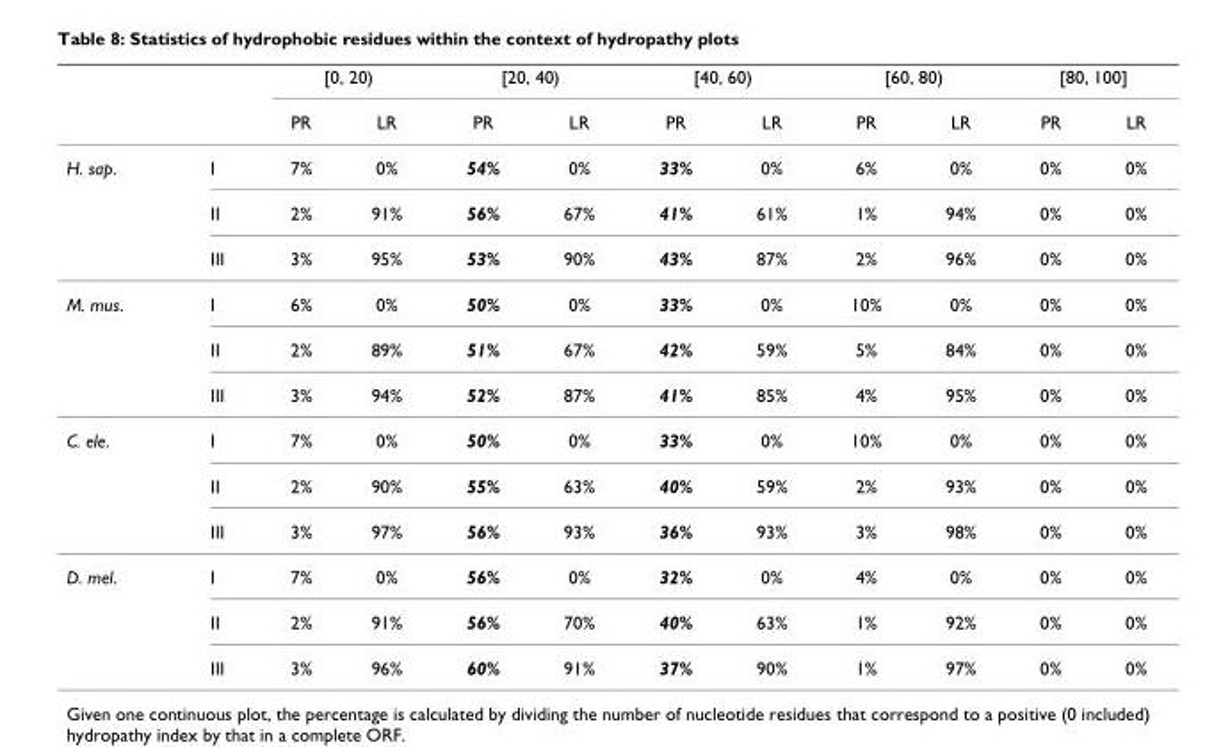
<table><thead><tr><td rowspan="2"></td><td rowspan="2"></td><td colspan="2">[0, 20)</td><td colspan="2">[20, 40)</td><td colspan="2">[40, 60)</td><td colspan="2">[60, 80)</td><td colspan="2">[80, 100]</td></tr><tr><td>PR</td><td>LR</td><td>PR</td><td>LR</td><td>PR</td><td>LR</td><td>PR</td><td>LR</td><td>PR</td><td>LR</td></tr></thead><tbody><tr><td rowspan="3">H. sap.</td><td>I</td><td>7%</td><td>0%</td><td>54%</td><td>0%</td><td>33%</td><td>0%</td><td>6%</td><td>0%</td><td>0%</td><td>0%</td></tr><tr><td>II</td><td>2%</td><td>91%</td><td>56%</td><td>67%</td><td>41%</td><td>61%</td><td>1%</td><td>94%</td><td>0%</td><td>0%</td></tr><tr><td>III</td><td>3%</td><td>95%</td><td>53%</td><td>90%</td><td>43%</td><td>87%</td><td>2%</td><td>96%</td><td>0%</td><td>0%</td></tr><tr><td rowspan="3">M. mus.</td><td>I</td><td>6%</td><td>0%</td><td>50%</td><td>0%</td><td>33%</td><td>0%</td><td>10%</td><td>0%</td><td>0%</td><td>0%</td></tr><tr><td>II</td><td>2%</td><td>89%</td><td>51%</td><td>67%</td><td>42%</td><td>59%</td><td>5%</td><td>84%</td><td>0%</td><td>0%</td></tr><tr><td>III</td><td>3%</td><td>94%</td><td>52%</td><td>87%</td><td>41%</td><td>85%</td><td>4%</td><td>95%</td><td>0%</td><td>0%</td></tr><tr><td rowspan="3">C. ele.</td><td>I</td><td>7%</td><td>0%</td><td>50%</td><td>0%</td><td>33%</td><td>0%</td><td>10%</td><td>0%</td><td>0%</td><td>0%</td></tr><tr><td>II</td><td>2%</td><td>90%</td><td>55%</td><td>63%</td><td>40%</td><td>59%</td><td>2%</td><td>93%</td><td>0%</td><td>0%</td></tr><tr><td>III</td><td>3%</td><td>97%</td><td>56%</td><td>93%</td><td>36%</td><td>93%</td><td>3%</td><td>98%</td><td>0%</td><td>0%</td></tr><tr><td rowspan="3">D. mel.</td><td>I</td><td>7%</td><td>0%</td><td>56%</td><td>0%</td><td>32%</td><td>0%</td><td>4%</td><td>0%</td><td>0%</td><td>0%</td></tr><tr><td>II</td><td>2%</td><td>91%</td><td>56%</td><td>70%</td><td>40%</td><td>63%</td><td>1%</td><td>92%</td><td>0%</td><td>0%</td></tr><tr><td>III</td><td>3%</td><td>96%</td><td>60%</td><td>91%</td><td>37%</td><td>90%</td><td>1%</td><td>97%</td><td>0%</td><td>0%</td></tr></tbody></table>